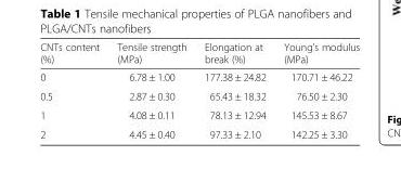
<table><thead><tr><td>CNTs content (%)</td><td>Tensile strength (MPa)</td><td>Elongation at break (%)</td><td>Young’s modulus (MPa)</td></tr></thead><tbody><tr><td>0</td><td>6.78 ± 1.00</td><td>177.38 ± 24.82</td><td>170.71 ± 46.22</td></tr><tr><td>0.5</td><td>2.87 ± 0.30</td><td>65.43 ± 18.32</td><td>76.50 ± 2.30</td></tr><tr><td>1</td><td>4.08 ± 0.11</td><td>78.13 ± 12.94</td><td>145.53 ± 8.67</td></tr><tr><td>2</td><td>4.45 ± 0.40</td><td>97.33 ± 2.10</td><td>142.25 ± 3.30</td></tr></tbody></table>